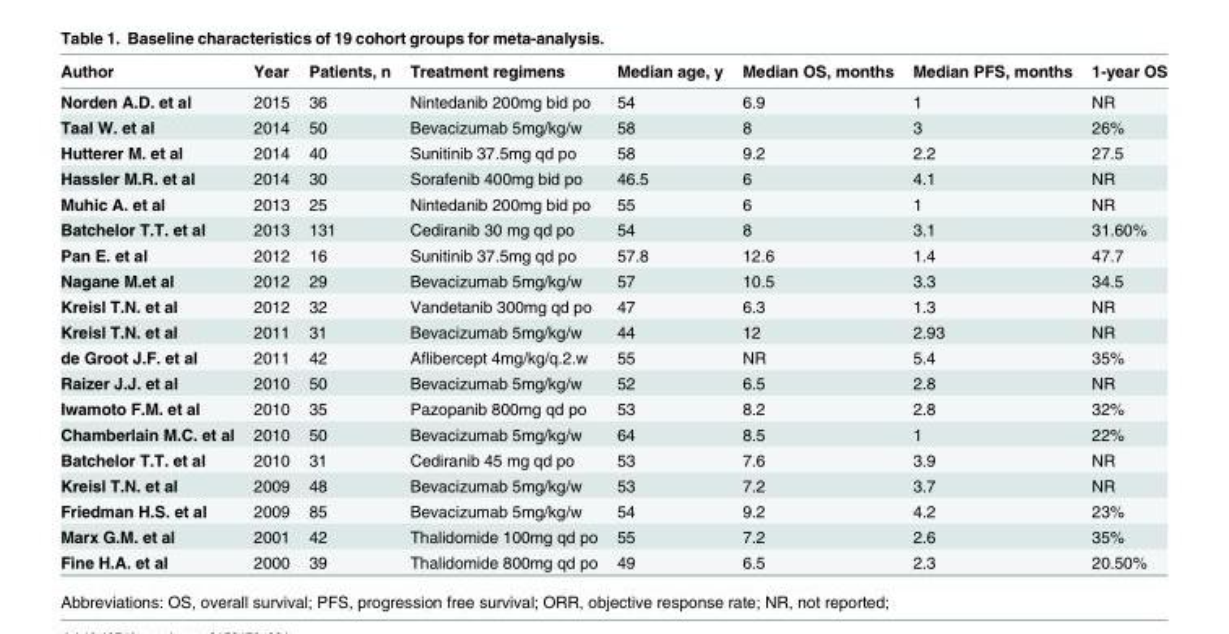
<table><thead><tr><td>Author</td><td>Year</td><td>Patients, n</td><td>Treatment regimens</td><td>Median age, y</td><td>Median OS, months</td><td>Median PFS, months</td><td>1-year OS</td></tr></thead><tbody><tr><td>Norden A.D. et al</td><td>2015</td><td>36</td><td>Nintedanib 200mg bid po</td><td>54</td><td>6.9</td><td>1</td><td>NR</td></tr><tr><td>Taal W. et al</td><td>2014</td><td>50</td><td>Bevacizumab 5mg/kg/w</td><td>58</td><td>8</td><td>3</td><td>26%</td></tr><tr><td>Hutterer M. et al</td><td>2014</td><td>40</td><td>Sunitinib 37.5mg qd po</td><td>58</td><td>9.2</td><td>2.2</td><td>27.5</td></tr><tr><td>Hassler M.R. et al</td><td>2014</td><td>30</td><td>Sorafenib 400mg bid po</td><td>46.5</td><td>6</td><td>4.1</td><td>NR</td></tr><tr><td>Muhic A. et al</td><td>2013</td><td>25</td><td>Nintedanib 200mg bid po</td><td>55</td><td>6</td><td>1</td><td>NR</td></tr><tr><td>Batchelor T.T. et al</td><td>2013</td><td>131</td><td>Cediranib 30 mg qd po</td><td>54</td><td>8</td><td>3.1</td><td>31.60%</td></tr><tr><td>Pan E. et al</td><td>2012</td><td>16</td><td>Sunitinib 37.5mg qd po</td><td>57.8</td><td>12.6</td><td>1.4</td><td>47.7</td></tr><tr><td>Nagane M.et al</td><td>2012</td><td>29</td><td>Bevacizumab 5mg/kg/w</td><td>57</td><td>10.5</td><td>3.3</td><td>34.5</td></tr><tr><td>Kreisl T.N. et al</td><td>2012</td><td>32</td><td>Vandetanib 300mg qd po</td><td>47</td><td>6.3</td><td>1.3</td><td>NR</td></tr><tr><td>Kreisl T.N. et al</td><td>2011</td><td>31</td><td>Bevacizumab 5mg/kg/w</td><td>44</td><td>12</td><td>2.93</td><td>NR</td></tr><tr><td>de Groot J.F. et al</td><td>2011</td><td>42</td><td>Aflibercept 4mg/kg/q.2.w</td><td>55</td><td>NR</td><td>5.4</td><td>35%</td></tr><tr><td>Raizer J.J. et al</td><td>2010</td><td>50</td><td>Bevacizumab 5mg/kg/w</td><td>52</td><td>6.5</td><td>2.8</td><td>NR</td></tr><tr><td>Iwamoto F.M. et al</td><td>2010</td><td>35</td><td>Pazopanib 800mg qd po</td><td>53</td><td>8.2</td><td>2.8</td><td>32%</td></tr><tr><td>Chamberlain M.C. et al</td><td>2010</td><td>50</td><td>Bevacizumab 5mg/kg/w</td><td>64</td><td>8.5</td><td>1</td><td>22%</td></tr><tr><td>Batchelor T.T. et al</td><td>2010</td><td>31</td><td>Cediranib 45 mg qd po</td><td>53</td><td>7.6</td><td>3.9</td><td>NR</td></tr><tr><td>Kreisl T.N. et al</td><td>2009</td><td>48</td><td>Bevacizumab 5mg/kg/w</td><td>53</td><td>7.2</td><td>3.7</td><td>NR</td></tr><tr><td>Friedman H.S. et al</td><td>2009</td><td>85</td><td>Bevacizumab 5mg/kg/w</td><td>54</td><td>9.2</td><td>4.2</td><td>23%</td></tr><tr><td>Marx G.M. et al</td><td>2001</td><td>42</td><td>Thalidomide 100mg qd po</td><td>55</td><td>7.2</td><td>2.6</td><td>35%</td></tr><tr><td>Fine H.A. et al</td><td>2000</td><td>39</td><td>Thalidomide 800mg qd po</td><td>49</td><td>6.5</td><td>2.3</td><td>20.50%</td></tr></tbody></table>